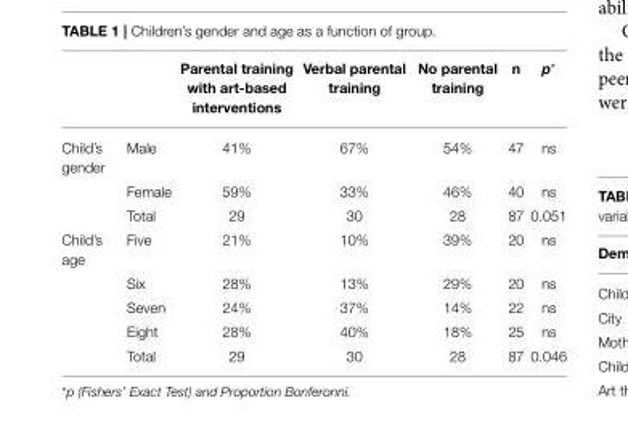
<table><thead><tr><td></td><td></td><td>Parental training with art-based interventions</td><td>Verbal parental training</td><td>No parental training</td><td>n</td><td>p*</td></tr></thead><tbody><tr><td rowspan="3">Child’s gender</td><td>Male</td><td>41%</td><td>67%</td><td>54%</td><td>47</td><td>ns</td></tr><tr><td>Female</td><td>59%</td><td>33%</td><td>46%</td><td>40</td><td>ns</td></tr><tr><td>Total</td><td>29</td><td>30</td><td>28</td><td>87</td><td>0.051</td></tr><tr><td rowspan="5">Child’s age</td><td>Five</td><td>21%</td><td>10%</td><td>39%</td><td>20</td><td>ns</td></tr><tr><td>Six</td><td>28%</td><td>13%</td><td>29%</td><td>20</td><td>ns</td></tr><tr><td>Seven</td><td>24%</td><td>37%</td><td>14%</td><td>22</td><td>ns</td></tr><tr><td>Eight</td><td>28%</td><td>40%</td><td>18%</td><td>25</td><td>ns</td></tr><tr><td>Total</td><td>29</td><td>30</td><td>28</td><td>87</td><td>0.046</td></tr></tbody></table>